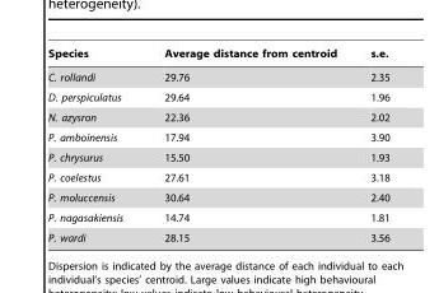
<table><thead><tr><td>Species</td><td>Average distance from centroid</td><td>s.e.</td></tr></thead><tbody><tr><td>C. rollandi</td><td>29.76</td><td>2.35</td></tr><tr><td>D. perspiculatus</td><td>29.64</td><td>1.96</td></tr><tr><td>N. azysron</td><td>22.36</td><td>2.02</td></tr><tr><td>P. amboinensis</td><td>17.94</td><td>3.90</td></tr><tr><td>P. chrysurus</td><td>15.50</td><td>1.93</td></tr><tr><td>P. coelestus</td><td>27.61</td><td>3.18</td></tr><tr><td>P. moluccensis</td><td>30.64</td><td>2.40</td></tr><tr><td>P. nagasakiensis</td><td>14.74</td><td>1.81</td></tr><tr><td>P. wardi</td><td>28.15</td><td>3.56</td></tr></tbody></table>